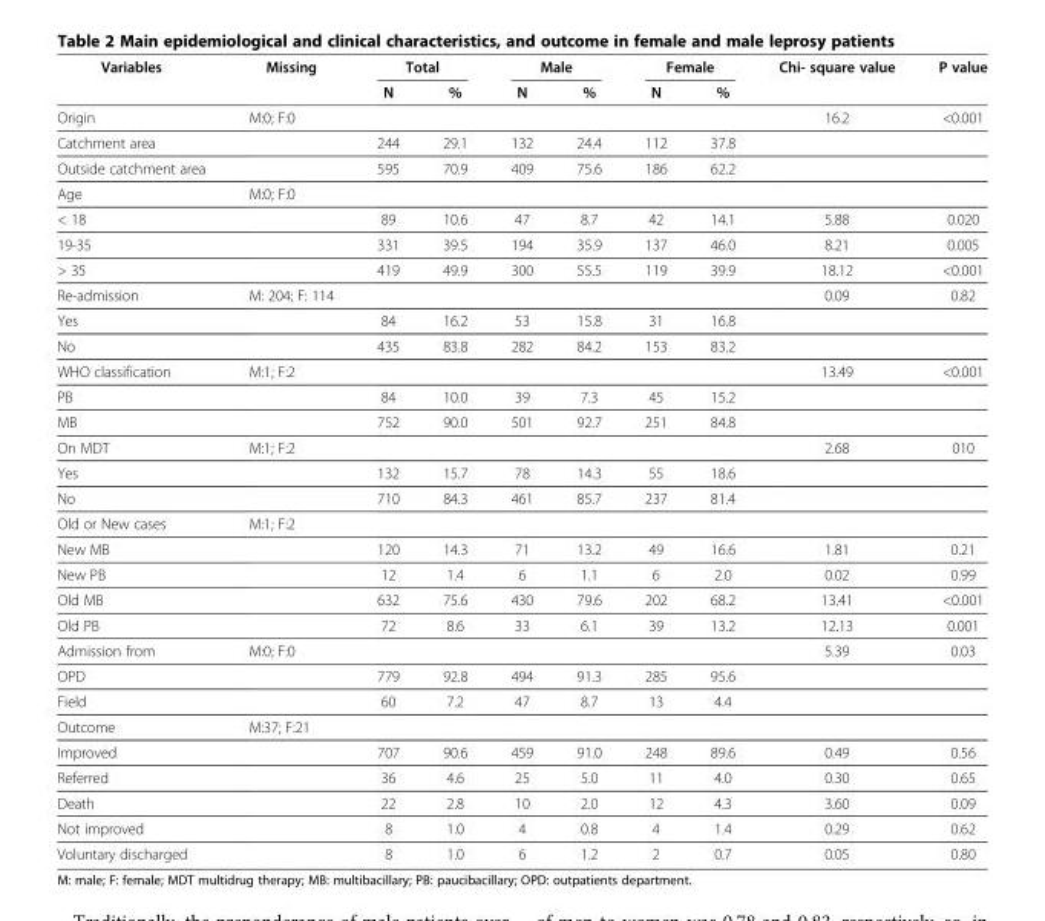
<table><thead><tr><td rowspan="2">Variables</td><td rowspan="2">Missing</td><td colspan="2">Total</td><td colspan="2">Male</td><td colspan="2">Female</td><td rowspan="2">Chi- square value</td><td rowspan="2">P value</td></tr><tr><td>N</td><td>%</td><td>N</td><td>%</td><td>N</td><td>%</td></tr></thead><tbody><tr><td>Origin</td><td>M:0; F:0</td><td></td><td></td><td></td><td></td><td></td><td></td><td>16.2</td><td>&lt;0.001</td></tr><tr><td>Catchment area</td><td></td><td>244</td><td>29.1</td><td>132</td><td>24.4</td><td>112</td><td>37.8</td><td></td><td></td></tr><tr><td>Outside catchment area</td><td></td><td>595</td><td>70.9</td><td>409</td><td>75.6</td><td>186</td><td>62.2</td><td></td><td></td></tr><tr><td>Age</td><td>M:0; F:0</td><td></td><td></td><td></td><td></td><td></td><td></td><td></td><td></td></tr><tr><td>&lt; 18</td><td></td><td>89</td><td>10.6</td><td>47</td><td>8.7</td><td>42</td><td>14.1</td><td>5.88</td><td>0.020</td></tr><tr><td>19-35</td><td></td><td>331</td><td>39.5</td><td>194</td><td>35.9</td><td>137</td><td>46.0</td><td>8.21</td><td>0.005</td></tr><tr><td>&gt; 35</td><td></td><td>419</td><td>49.9</td><td>300</td><td>55.5</td><td>119</td><td>39.9</td><td>18.12</td><td>&lt;0.001</td></tr><tr><td>Re-admission</td><td>M: 204; F: 114</td><td></td><td></td><td></td><td></td><td></td><td></td><td>0.09</td><td>0.82</td></tr><tr><td>Yes</td><td></td><td>84</td><td>16.2</td><td>53</td><td>15.8</td><td>31</td><td>16.8</td><td></td><td></td></tr><tr><td>No</td><td></td><td>435</td><td>83.8</td><td>282</td><td>84.2</td><td>153</td><td>83.2</td><td></td><td></td></tr><tr><td>WHO classification</td><td>M:1; F:2</td><td></td><td></td><td></td><td></td><td></td><td></td><td>13.49</td><td>&lt;0.001</td></tr><tr><td>PB</td><td></td><td>84</td><td>10.0</td><td>39</td><td>7.3</td><td>45</td><td>15.2</td><td></td><td></td></tr><tr><td>MB</td><td></td><td>752</td><td>90.0</td><td>501</td><td>92.7</td><td>251</td><td>84.8</td><td></td><td></td></tr><tr><td>On MDT</td><td>M:1; F:2</td><td></td><td></td><td></td><td></td><td></td><td></td><td>2.68</td><td>010</td></tr><tr><td>Yes</td><td></td><td>132</td><td>15.7</td><td>78</td><td>14.3</td><td>55</td><td>18.6</td><td></td><td></td></tr><tr><td>No</td><td></td><td>710</td><td>84.3</td><td>461</td><td>85.7</td><td>237</td><td>81.4</td><td></td><td></td></tr><tr><td>Old or New cases</td><td>M:1; F:2</td><td></td><td></td><td></td><td></td><td></td><td></td><td></td><td></td></tr><tr><td>New MB</td><td></td><td>120</td><td>14.3</td><td>71</td><td>13.2</td><td>49</td><td>16.6</td><td>1.81</td><td>0.21</td></tr><tr><td>New PB</td><td></td><td>12</td><td>1.4</td><td>6</td><td>1.1</td><td>6</td><td>2.0</td><td>0.02</td><td>0.99</td></tr><tr><td>Old MB</td><td></td><td>632</td><td>75.6</td><td>430</td><td>79.6</td><td>202</td><td>68.2</td><td>13.41</td><td>&lt;0.001</td></tr><tr><td>Old PB</td><td></td><td>72</td><td>8.6</td><td>33</td><td>6.1</td><td>39</td><td>13.2</td><td>12.13</td><td>0.001</td></tr><tr><td>Admission from</td><td>M:0; F:0</td><td></td><td></td><td></td><td></td><td></td><td></td><td>5.39</td><td>0.03</td></tr><tr><td>OPD</td><td></td><td>779</td><td>92.8</td><td>494</td><td>91.3</td><td>285</td><td>95.6</td><td></td><td></td></tr><tr><td>Field</td><td></td><td>60</td><td>7.2</td><td>47</td><td>8.7</td><td>13</td><td>4.4</td><td></td><td></td></tr><tr><td>Outcome</td><td>M:37; F:21</td><td></td><td></td><td></td><td></td><td></td><td></td><td></td><td></td></tr><tr><td>Improved</td><td></td><td>707</td><td>90.6</td><td>459</td><td>91.0</td><td>248</td><td>89.6</td><td>0.49</td><td>0.56</td></tr><tr><td>Referred</td><td></td><td>36</td><td>4.6</td><td>25</td><td>5.0</td><td>11</td><td>4.0</td><td>0.30</td><td>0.65</td></tr><tr><td>Death</td><td></td><td>22</td><td>2.8</td><td>10</td><td>2.0</td><td>12</td><td>4.3</td><td>3.60</td><td>0.09</td></tr><tr><td>Not improved</td><td></td><td>8</td><td>1.0</td><td>4</td><td>0.8</td><td>4</td><td>1.4</td><td>0.29</td><td>0.62</td></tr><tr><td>Voluntary discharged</td><td></td><td>8</td><td>1.0</td><td>6</td><td>1.2</td><td>2</td><td>0.7</td><td>0.05</td><td>0.80</td></tr></tbody></table>